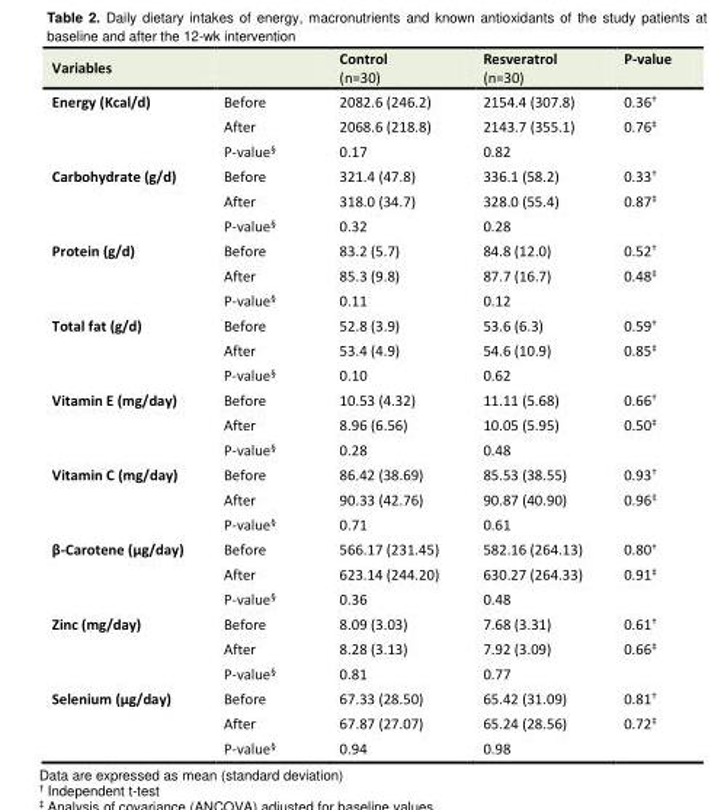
<table><tbody><tr><td>Variables</td><td></td><td>Control (n=30)</td><td>Resveratrol (n=30)</td><td>P-value</td></tr><tr><td rowspan="3">Energy (Kcal/d)</td><td>Before</td><td>2082.6 (246.2)</td><td>2154.4 (307.8)</td><td>0.36<sup>†</sup></td></tr><tr><td>After</td><td>2068.6 (218.8)</td><td>2143.7 (355.1)</td><td>0.76<sup>‡</sup></td></tr><tr><td>P-value<sup>§</sup></td><td>0.17</td><td>0.82</td><td></td></tr><tr><td rowspan="3">Carbohydrate (g/d)</td><td>Before</td><td>321.4 (47.8)</td><td>336.1 (58.2)</td><td>0.33<sup>†</sup></td></tr><tr><td>After</td><td>318.0 (34.7)</td><td>328.0 (55.4)</td><td>0.87<sup>‡</sup></td></tr><tr><td>P-value<sup>§</sup></td><td>0.32</td><td>0.28</td><td></td></tr><tr><td rowspan="3">Protein (g/d)</td><td>Before</td><td>83.2 (5.7)</td><td>84.8 (12.0)</td><td>0.52<sup>†</sup></td></tr><tr><td>After</td><td>85.3 (9.8)</td><td>87.7 (16.7)</td><td>0.48<sup>‡</sup></td></tr><tr><td>P-value<sup>§</sup></td><td>0.11</td><td>0.12</td><td></td></tr><tr><td rowspan="3">Total fat (g/d)</td><td>Before</td><td>52.8 (3.9)</td><td>53.6 (6.3)</td><td>0.59<sup>†</sup></td></tr><tr><td>After</td><td>53.4 (4.9)</td><td>54.6 (10.9)</td><td>0.85<sup>‡</sup></td></tr><tr><td>P-value<sup>§</sup></td><td>0.10</td><td>0.62</td><td></td></tr><tr><td rowspan="3">Vitamin E (mg/day)</td><td>Before</td><td>10.53 (4.32)</td><td>11.11 (5.68)</td><td>0.66<sup>†</sup></td></tr><tr><td>After</td><td>8.96 (6.56)</td><td>10.05 (5.95)</td><td>0.50<sup>‡</sup></td></tr><tr><td>P-value<sup>§</sup></td><td>0.28</td><td>0.48</td><td></td></tr><tr><td rowspan="3">Vitamin C (mg/day)</td><td>Before</td><td>86.42 (38.69)</td><td>85.53 (38.55)</td><td>0.93<sup>†</sup></td></tr><tr><td>After</td><td>90.33 (42.76)</td><td>90.87 (40.90)</td><td>0.96<sup>‡</sup></td></tr><tr><td>P-value<sup>§</sup></td><td>0.71</td><td>0.61</td><td></td></tr><tr><td rowspan="3">β-Carotene (µg/day)</td><td>Before</td><td>566.17 (231.45)</td><td>582.16 (264.13)</td><td>0.80<sup>†</sup></td></tr><tr><td>After</td><td>623.14 (244.20)</td><td>630.27 (264.33)</td><td>0.91<sup>‡</sup></td></tr><tr><td>P-value<sup>§</sup></td><td>0.36</td><td>0.48</td><td></td></tr><tr><td rowspan="3">Zinc (mg/day)</td><td>Before</td><td>8.09 (3.03)</td><td>7.68 (3.31)</td><td>0.61<sup>†</sup></td></tr><tr><td>After</td><td>8.28 (3.13)</td><td>7.92 (3.09)</td><td>0.66<sup>‡</sup></td></tr><tr><td>P-value<sup>§</sup></td><td>0.81</td><td>0.77</td><td></td></tr><tr><td rowspan="3">Selenium (µg/day)</td><td>Before</td><td>67.33 (28.50)</td><td>65.42 (31.09)</td><td>0.81<sup>†</sup></td></tr><tr><td>After</td><td>67.87 (27.07)</td><td>65.24 (28.56)</td><td>0.72<sup>‡</sup></td></tr><tr><td>P-value<sup>§</sup></td><td>0.94</td><td>0.98</td><td></td></tr></tbody></table>